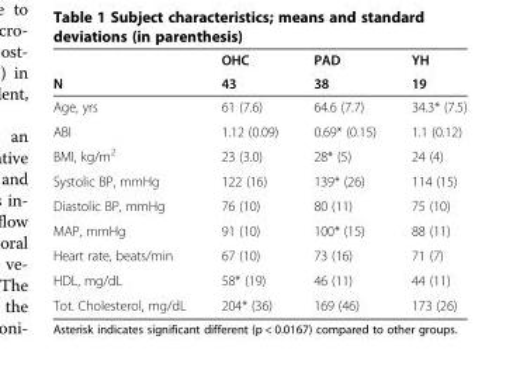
<table><thead><tr><td rowspan="2">N</td><td rowspan="2">OHC 43</td><td rowspan="2">PAD 38</td><td rowspan="2">YH 19</td></tr><tr></tr></thead><tbody><tr><td>Age, yrs</td><td>61 (7.6)</td><td>64.6 (7.7)</td><td>34.3* (7.5)</td></tr><tr><td>ABI</td><td>1.12 (0.09)</td><td>0.69* (0.15)</td><td>1.1 (0.12)</td></tr><tr><td>BMI, kg/m<sup>2</sup></td><td>23 (3.0)</td><td>28* (5)</td><td>24 (4)</td></tr><tr><td>Systolic BP, mmHg</td><td>122 (16)</td><td>139* (26)</td><td>114 (15)</td></tr><tr><td>Diastolic BP, mmHg</td><td>76 (10)</td><td>80 (11)</td><td>75 (10)</td></tr><tr><td>MAP, mmHg</td><td>91 (10)</td><td>100* (15)</td><td>88 (11)</td></tr><tr><td>Heart rate, beats/min</td><td>67 (10)</td><td>73 (16)</td><td>71 (7)</td></tr><tr><td>HDL, mg/dL</td><td>58* (19)</td><td>46 (11)</td><td>44 (11)</td></tr><tr><td>Tot. Cholesterol, mg/dL</td><td>204* (36)</td><td>169 (46)</td><td>173 (26)</td></tr></tbody></table>